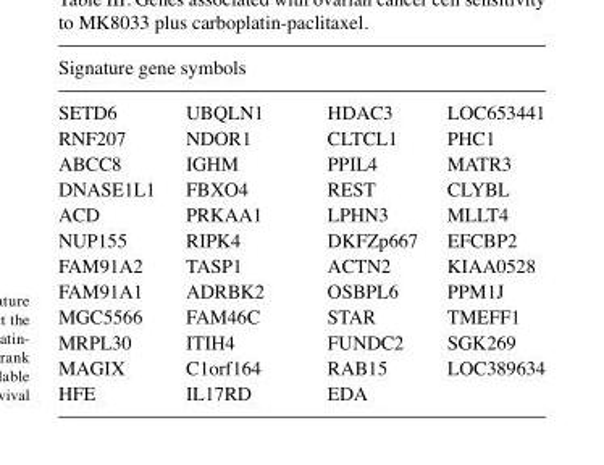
<table><thead><tr><td colspan="4">Signature gene symbols</td></tr><tr><td>SETD6</td><td>UBQLN1</td><td>HDAC3</td><td>LOC653441</td></tr></thead><tbody><tr><td>RNF207</td><td>NDOR1</td><td>CLTCL1</td><td>PHC1</td></tr><tr><td>ABCC8</td><td>IGHM</td><td>PPIL4</td><td>MATR3</td></tr><tr><td>DNASE1L1</td><td>FBXO4</td><td>REST</td><td>CLYBL</td></tr><tr><td>ACD</td><td>PRKAA1</td><td>LPHN3</td><td>MLLT4</td></tr><tr><td>NUP155</td><td>RIPK4</td><td>DKFZp667</td><td>EFCBP2</td></tr><tr><td>FAM91A2</td><td>TASP1</td><td>ACTN2</td><td>KIAA0528</td></tr><tr><td>FAM91A1</td><td>ADRBK2</td><td>OSBPL6</td><td>PPM1J</td></tr><tr><td>MGC5566</td><td>FAM46C</td><td>STAR</td><td>TMEFF1</td></tr><tr><td>MRPL30</td><td>ITIH4</td><td>FUNDC2</td><td>SGK269</td></tr><tr><td>MAGIX</td><td>C1orf164</td><td>RAB15</td><td>LOC389634</td></tr><tr><td>HFE</td><td>IL17RD</td><td>EDA</td><td></td></tr></tbody></table>